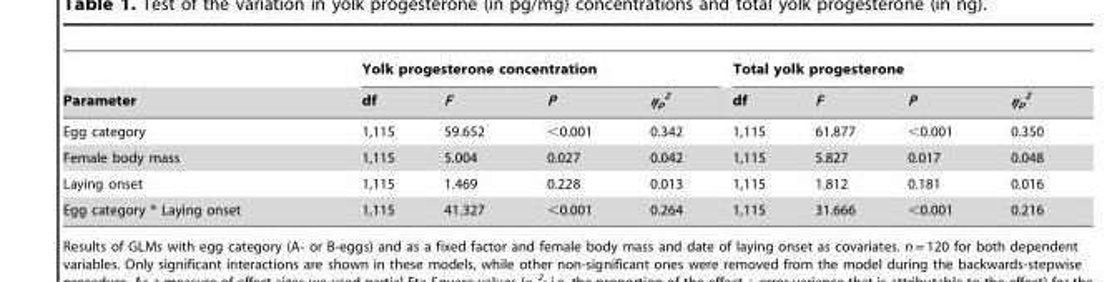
<table><thead><tr><td rowspan="2">Parameter</td><td colspan="4">Yolk progesterone concentration</td><td colspan="4">Total yolk progesterone</td></tr><tr><td>df</td><td>F</td><td>P</td><td>η<sub>p</sub> <sup>2</sup></td><td>df</td><td>F</td><td>P</td><td>η<sub>p</sub> <sup>2</sup></td></tr></thead><tbody><tr><td>Egg category</td><td>1,115</td><td>59.652</td><td>&lt;0.001</td><td>0.342</td><td>1,115</td><td>61.877</td><td>&lt;0.001</td><td>0.350</td></tr><tr><td>Female body mass</td><td>1,115</td><td>5.004</td><td>0.027</td><td>0.042</td><td>1,115</td><td>5.827</td><td>0.017</td><td>0.048</td></tr><tr><td>Laying onset</td><td>1,115</td><td>1.469</td><td>0.228</td><td>0.013</td><td>1,115</td><td>1.812</td><td>0.181</td><td>0.016</td></tr><tr><td>Egg category * Laying onset</td><td>1,115</td><td>41.327</td><td>&lt;0.001</td><td>0.264</td><td>1,115</td><td>31.666</td><td>&lt;0.001</td><td>0.216</td></tr></tbody></table>